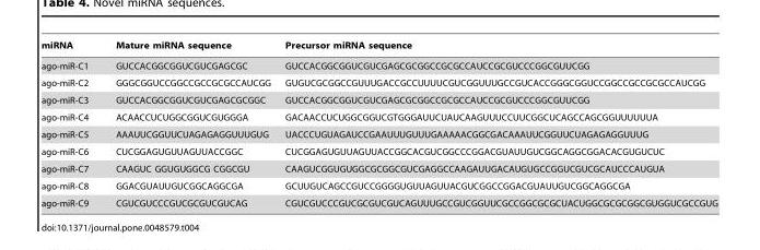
<table><thead><tr><td>miRNA</td><td>Mature miRNA sequence</td><td>Precursor miRNA sequence</td></tr></thead><tbody><tr><td>ago-miR-C1</td><td>GUCCACGGCGGUCGUCGAGCGC</td><td>GUCCACGGCGGUCGUCGAGCGCGGCCGCGCCAUCCGCGUCCCGGCGUUCGG</td></tr><tr><td>ago-miR-C2</td><td>GGGCGGUCCGGCCGCCGCGCCAUCGG</td><td>GUGUCGCGGCCGUUUGACCGCCUUUUCGUCGGUUUGCCGUCACCGGGCGGUCCGGCCGCCGCGCCAUCGG</td></tr><tr><td>ago-miR-C3</td><td>GUCCACGGCGGUCGUCGAGCGCGGC</td><td>GUCCACGGCGGUCGUCGAGCGCGGCCGCGCCAUCCGCGUCCCGGCGUUCGG</td></tr><tr><td>ago-miR-C4</td><td>ACAACCUCUGGCGGUCGUGGGA</td><td>GACAACCUCUGGCGGUCGTGGGAUUCUAUCAAGUUUCCUUCGGCUCAGCCAGCGGUUUUUUA</td></tr><tr><td>ago-miR-C5</td><td>AAAUUCGGUUCUAGAGAGGUUUGUG</td><td>UACCCUGUAGAUCCGAAUUUGUUUGAAAAACGGCGACAAAUUCGGUUCUAGAGAGGUUUG</td></tr><tr><td>ago-miR-C6</td><td>CUCGGAGUGUUAGUUACCGGC</td><td>CUCGGAGUGUUAGUUACCGGCACGUCGGCCCGGACGUAUUGUCGGCAGGCGGACACGUGUCUC</td></tr><tr><td>ago-miR-C7</td><td>CAAGUC GGUGUGGCG CGGCGU</td><td>CAAGUCGGUGUGGCGCGGCGUCGAGGCCAAGAUUGACAUGUGCCGGUCGUCGCAUCCCAUGUA</td></tr><tr><td>ago-miR-C8</td><td>GGACGUAUUGUCGGCAGGCGA</td><td>GCUUGUCAGCCGUCCGGGGUGUUAGUUACGUCGGCCGGACGUAUUGUCGGCAGGCGA</td></tr><tr><td>ago-miR-C9</td><td>CGUCGUCCCGUCGCGUCGUCAG</td><td>CGUCGUCCCGUCGCGUCGUCAGUUUGCCGUCGGUUCGCCGGCGCGCUACUGGCGCGCGGCGUGGUCGCCGUG</td></tr></tbody></table>